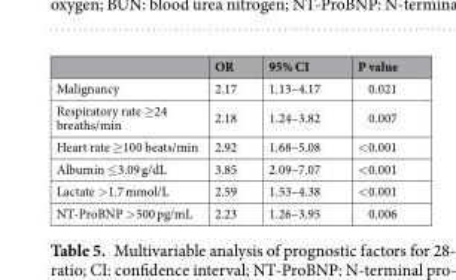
<table><thead><tr><td></td><td>OR</td><td>95% CI</td><td>P value</td></tr></thead><tbody><tr><td>Malignancy</td><td>2.17</td><td>1.13–4.17</td><td>0.021</td></tr><tr><td>Respiratory rate ≥24 breaths/min</td><td>2.18</td><td>1.24–3.82</td><td>0.007</td></tr><tr><td>Heart rate ≥100 beats/min</td><td>2.92</td><td>1.68–5.08</td><td>&lt;0.001</td></tr><tr><td>Albumin ≤3.09 g/dL</td><td>3.85</td><td>2.09–7.07</td><td>&lt;0.001</td></tr><tr><td>Lactate &gt;1.7 mmol/L</td><td>2.59</td><td>1.53–4.38</td><td>&lt;0.001</td></tr><tr><td>NT-ProBNP &gt;500 pg/mL</td><td>2.23</td><td>1.26–3.95</td><td>0.006</td></tr></tbody></table>